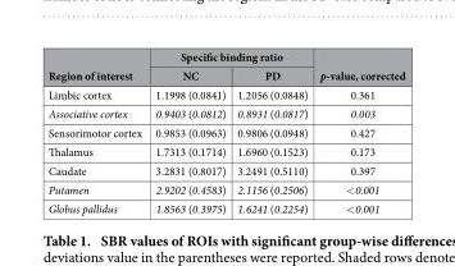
<table><thead><tr><td rowspan="2">Region of interest</td><td colspan="2">Specific binding ratio</td><td rowspan="2">p-value, corrected</td></tr><tr><td>NC</td><td>PD</td></tr></thead><tbody><tr><td>Limbic cortex</td><td>1.1998 (0.0841)</td><td>1.2056 (0.0848)</td><td>0.361</td></tr><tr><td>Associative cortex</td><td>0.9403 (0.0812)</td><td>0.8931 (0.0817)</td><td>0.003</td></tr><tr><td>Sensorimotor cortex</td><td>0.9853 (0.0963)</td><td>0.9806 (0.0948)</td><td>0.427</td></tr><tr><td>Thalamus</td><td>1.7313 (0.1714)</td><td>1.6960 (0.1523)</td><td>0.173</td></tr><tr><td>Caudate</td><td>3.2831 (0.8017)</td><td>3.2491 (0.5110)</td><td>0.397</td></tr><tr><td>Putamen</td><td>2.9202 (0.4583)</td><td>2.1156 (0.2506)</td><td>&lt; 0.001</td></tr><tr><td>Globus pallidus</td><td>1.8563 (0.3975)</td><td>1.6241 (0.2254)</td><td>&lt; 0.001</td></tr></tbody></table>